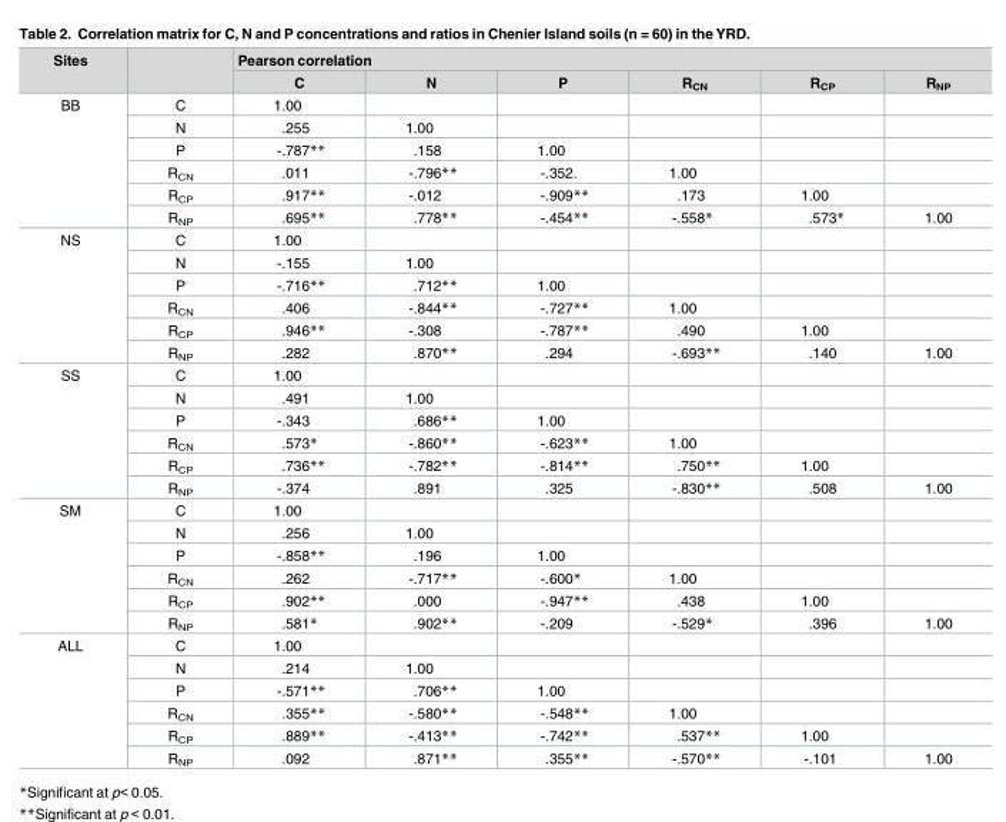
<table><thead><tr><td rowspan="2">Sites</td><td rowspan="2"></td><td colspan="6">Pearson correlation</td></tr><tr><td>C</td><td>N</td><td>P</td><td>R<sub>CN</sub></td><td>R<sub>CP</sub></td><td>R<sub>NP</sub></td></tr></thead><tbody><tr><td rowspan="6">BB</td><td>C</td><td>1.00</td><td></td><td></td><td></td><td></td><td></td></tr><tr><td>N</td><td>.255</td><td>1.00</td><td></td><td></td><td></td><td></td></tr><tr><td>P</td><td>-.787**</td><td>.158</td><td>1.00</td><td></td><td></td><td></td></tr><tr><td>R<sub>CN</sub></td><td>.011</td><td>-.796**</td><td>-.352.</td><td>1.00</td><td></td><td></td></tr><tr><td>R<sub>CP</sub></td><td>.917**</td><td>-.012</td><td>-.909**</td><td>.173</td><td>1.00</td><td></td></tr><tr><td>R<sub>NP</sub></td><td>.695**</td><td>.778**</td><td>-.454**</td><td>-.558*</td><td>.573*</td><td>1.00</td></tr><tr><td rowspan="6">NS</td><td>C</td><td>1.00</td><td></td><td></td><td></td><td></td><td></td></tr><tr><td>N</td><td>-.155</td><td>1.00</td><td></td><td></td><td></td><td></td></tr><tr><td>P</td><td>-.716**</td><td>.712**</td><td>1.00</td><td></td><td></td><td></td></tr><tr><td>R<sub>CN</sub></td><td>.406</td><td>-.844**</td><td>-.727**</td><td>1.00</td><td></td><td></td></tr><tr><td>R<sub>CP</sub></td><td>.946**</td><td>-.308</td><td>-.787**</td><td>.490</td><td>1.00</td><td></td></tr><tr><td>R<sub>NP</sub></td><td>.282</td><td>.870**</td><td>.294</td><td>-.693**</td><td>.140</td><td>1.00</td></tr><tr><td rowspan="6">SS</td><td>C</td><td>1.00</td><td></td><td></td><td></td><td></td><td></td></tr><tr><td>N</td><td>.491</td><td>1.00</td><td></td><td></td><td></td><td></td></tr><tr><td>P</td><td>-.343</td><td>.686**</td><td>1.00</td><td></td><td></td><td></td></tr><tr><td>R<sub>CN</sub></td><td>.573*</td><td>-.860**</td><td>-.623**</td><td>1.00</td><td></td><td></td></tr><tr><td>R<sub>CP</sub></td><td>.736**</td><td>-.782**</td><td>-.814**</td><td>.750**</td><td>1.00</td><td></td></tr><tr><td>R<sub>NP</sub></td><td>-.374</td><td>.891</td><td>.325</td><td>-.830**</td><td>.508</td><td>1.00</td></tr><tr><td rowspan="6">SM</td><td>C</td><td>1.00</td><td></td><td></td><td></td><td></td><td></td></tr><tr><td>N</td><td>.256</td><td>1.00</td><td></td><td></td><td></td><td></td></tr><tr><td>P</td><td>-.858**</td><td>.196</td><td>1.00</td><td></td><td></td><td></td></tr><tr><td>R<sub>CN</sub></td><td>.262</td><td>-.717**</td><td>-.600*</td><td>1.00</td><td></td><td></td></tr><tr><td>R<sub>CP</sub></td><td>.902**</td><td>.000</td><td>-.947**</td><td>.438</td><td>1.00</td><td></td></tr><tr><td>R<sub>NP</sub></td><td>.581*</td><td>.902**</td><td>-.209</td><td>-.529*</td><td>.396</td><td>1.00</td></tr><tr><td rowspan="6">ALL</td><td>C</td><td>1.00</td><td></td><td></td><td></td><td></td><td></td></tr><tr><td>N</td><td>.214</td><td>1.00</td><td></td><td></td><td></td><td></td></tr><tr><td>P</td><td>-.571**</td><td>.706**</td><td>1.00</td><td></td><td></td><td></td></tr><tr><td>R<sub>CN</sub></td><td>.355**</td><td>-.580**</td><td>-.548**</td><td>1.00</td><td></td><td></td></tr><tr><td>R<sub>CP</sub></td><td>.889**</td><td>-.413**</td><td>-.742**</td><td>.537**</td><td>1.00</td><td></td></tr><tr><td>R<sub>NP</sub></td><td>.092</td><td>.871**</td><td>.355**</td><td>-.570**</td><td>-.101</td><td>1.00</td></tr></tbody></table>